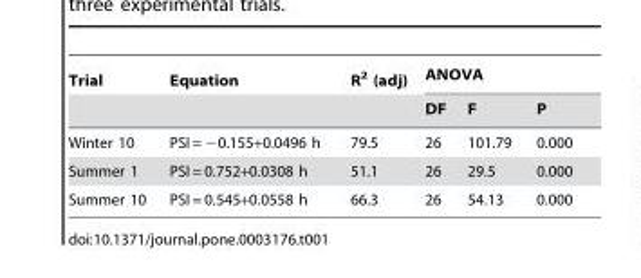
<table><thead><tr><td rowspan="2">Trial</td><td rowspan="2">Equation</td><td rowspan="2">R<sup>2</sup> (adj)</td><td colspan="3">ANOVA</td></tr><tr><td>DF</td><td>F</td><td>P</td></tr></thead><tbody><tr><td>Winter 10</td><td>PSI = −0.155+0.0496 h</td><td>79.5</td><td>26</td><td>101.79</td><td>0.000</td></tr><tr><td>Summer 1</td><td>PSI = 0.752+0.0308 h</td><td>51.1</td><td>26</td><td>29.5</td><td>0.000</td></tr><tr><td>Summer 10</td><td>PSI = 0.545+0.0558 h</td><td>66.3</td><td>26</td><td>54.13</td><td>0.000</td></tr></tbody></table>